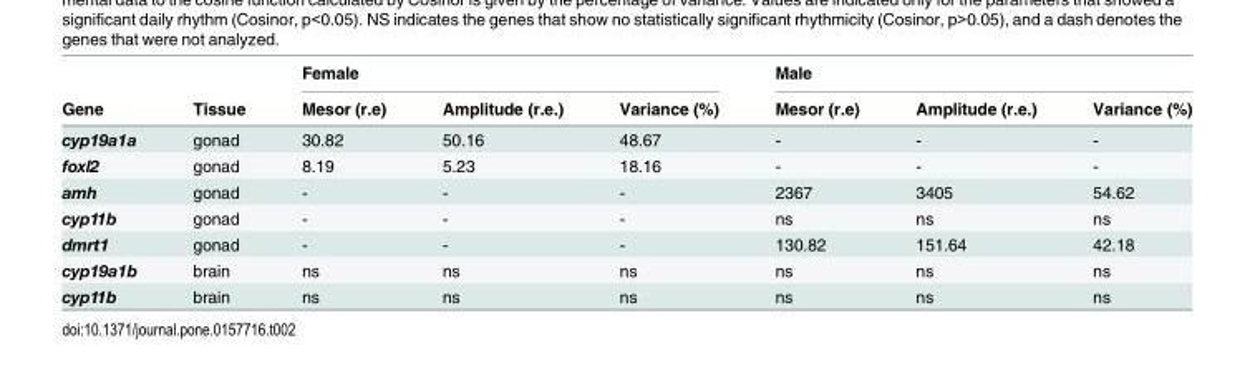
<table><thead><tr><td rowspan="2">Gene</td><td rowspan="2">Tissue</td><td colspan="3">Female</td><td colspan="3">Male</td></tr><tr><td>Mesor (r.e)</td><td>Amplitude (r.e.)</td><td>Variance (%)</td><td>Mesor (r.e)</td><td>Amplitude (r.e.)</td><td>Variance (%)</td></tr></thead><tbody><tr><td>cyp19a1a</td><td>gonad</td><td>30.82</td><td>50.16</td><td>48.67</td><td>-</td><td>-</td><td>-</td></tr><tr><td>foxl2</td><td>gonad</td><td>8.19</td><td>5.23</td><td>18.16</td><td>-</td><td>-</td><td>-</td></tr><tr><td>amh</td><td>gonad</td><td>-</td><td>-</td><td>-</td><td>2367</td><td>3405</td><td>54.62</td></tr><tr><td>cyp11b</td><td>gonad</td><td>-</td><td>-</td><td>-</td><td>ns</td><td>ns</td><td>ns</td></tr><tr><td>dmrt1</td><td>gonad</td><td>-</td><td>-</td><td>-</td><td>130.82</td><td>151.64</td><td>42.18</td></tr><tr><td>cyp19a1b</td><td>brain</td><td>ns</td><td>ns</td><td>ns</td><td>ns</td><td>ns</td><td>ns</td></tr><tr><td>cyp11b</td><td>brain</td><td>ns</td><td>ns</td><td>ns</td><td>ns</td><td>ns</td><td>ns</td></tr></tbody></table>